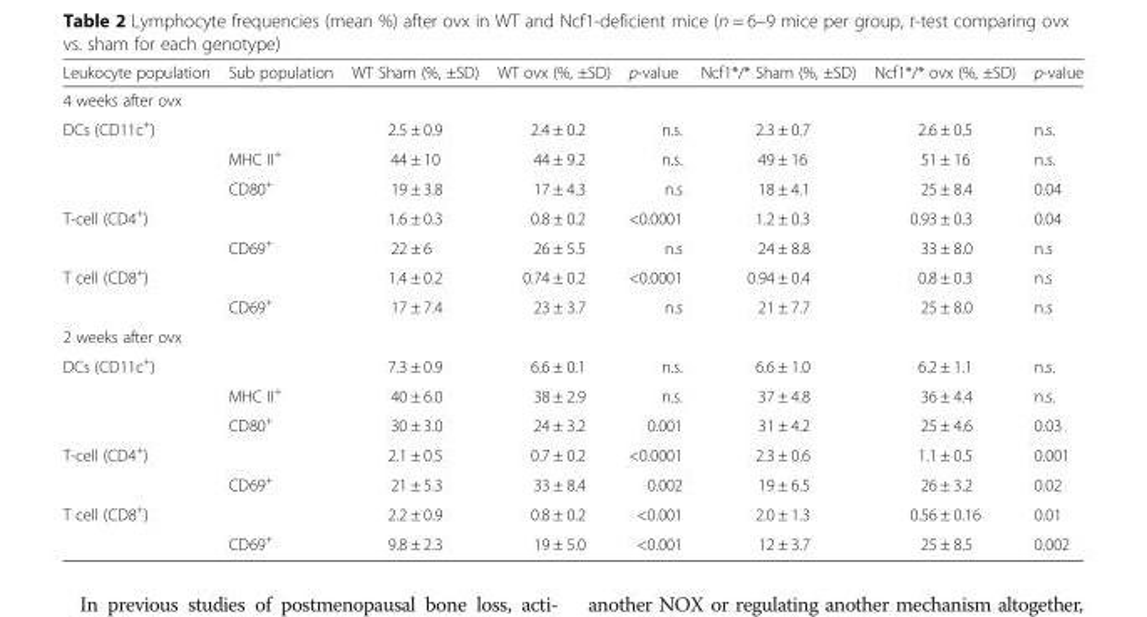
<table><thead><tr><td>Leukocyte population</td><td>Sub population</td><td>WT Sham (%, ±SD)</td><td>WT ovx (%, ±SD)</td><td>p-value</td><td>Ncf1*/* Sham (%, ±SD)</td><td>Ncf1*/* ovx (%, ±SD)</td><td>p-value</td></tr></thead><tbody><tr><td colspan="8">4 weeks after ovx</td></tr><tr><td rowspan="3">DCs (CD11c<sup>+</sup>)</td><td></td><td>2.5 ± 0.9</td><td>2.4 ± 0.2</td><td>n.s.</td><td>2.3 ± 0.7</td><td>2.6 ± 0.5</td><td>n.s.</td></tr><tr><td>MHC II<sup>+</sup></td><td>44 ± 10</td><td>44 ± 9.2</td><td>n.s.</td><td>49 ± 16</td><td>51 ± 16</td><td>n.s.</td></tr><tr><td>CD80<sup>+</sup></td><td>19 ± 3.8</td><td>17 ± 4.3</td><td>n.s</td><td>18 ± 4.1</td><td>25 ± 8.4</td><td>0.04</td></tr><tr><td rowspan="2">T-cell (CD4<sup>+</sup>)</td><td></td><td>1.6 ± 0.3</td><td>0.8 ± 0.2</td><td>&lt;0.0001</td><td>1.2 ± 0.3</td><td>0.93 ± 0.3</td><td>0.04</td></tr><tr><td>CD69<sup>+</sup></td><td>22 ± 6</td><td>26 ± 5.5</td><td>n.s</td><td>24 ± 8.8</td><td>33 ± 8.0</td><td>n.s</td></tr><tr><td rowspan="2">T cell (CD8<sup>+</sup>)</td><td></td><td>1.4 ± 0.2</td><td>0.74 ± 0.2</td><td>&lt;0.0001</td><td>0.94 ± 0.4</td><td>0.8 ± 0.3</td><td>n.s</td></tr><tr><td>CD69<sup>+</sup></td><td>17 ± 7.4</td><td>23 ± 3.7</td><td>n.s</td><td>21 ± 7.7</td><td>25 ± 8.0</td><td>n.s</td></tr><tr><td colspan="8">2 weeks after ovx</td></tr><tr><td rowspan="3">DCs (CD11c<sup>+</sup>)</td><td></td><td>7.3 ± 0.9</td><td>6.6 ± 0.1</td><td>n.s.</td><td>6.6 ± 1.0</td><td>6.2 ± 1.1</td><td>n.s.</td></tr><tr><td>MHC II<sup>+</sup></td><td>40 ± 6.0</td><td>38 ± 2.9</td><td>n.s.</td><td>37 ± 4.8</td><td>36 ± 4.4</td><td>n.s.</td></tr><tr><td>CD80<sup>+</sup></td><td>30 ± 3.0</td><td>24 ± 3.2</td><td>0.001</td><td>31 ± 4.2</td><td>25 ± 4.6</td><td>0.03</td></tr><tr><td rowspan="2">T-cell (CD4<sup>+</sup>)</td><td></td><td>2.1 ± 0.5</td><td>0.7 ± 0.2</td><td>&lt;0.0001</td><td>2.3 ± 0.6</td><td>1.1 ± 0.5</td><td>0.001</td></tr><tr><td>CD69<sup>+</sup></td><td>21 ± 5.3</td><td>33 ± 8.4</td><td>0.002</td><td>19 ± 6.5</td><td>26 ± 3.2</td><td>0.02</td></tr><tr><td rowspan="2">T cell (CD8<sup>+</sup>)</td><td></td><td>2.2 ± 0.9</td><td>0.8 ± 0.2</td><td>&lt;0.001</td><td>2.0 ± 1.3</td><td>0.56 ± 0.16</td><td>0.01</td></tr><tr><td>CD69<sup>+</sup></td><td>9.8 ± 2.3</td><td>19 ± 5.0</td><td>&lt;0.001</td><td>12 ± 3.7</td><td>25 ± 8.5</td><td>0.002</td></tr></tbody></table>